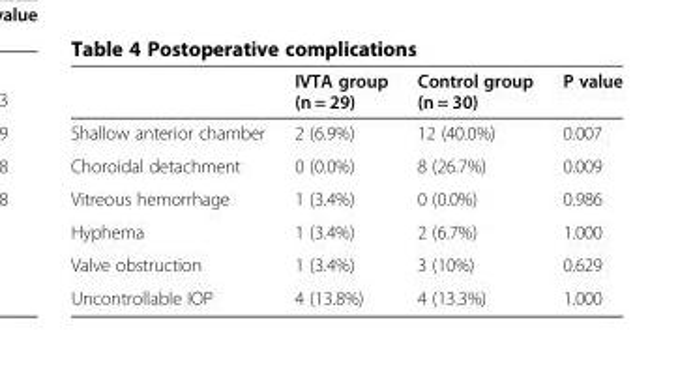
<table><thead><tr><td></td><td>IVTA group (n = 29)</td><td>Control group (n = 30)</td><td>P value</td></tr></thead><tbody><tr><td>Shallow anterior chamber</td><td>2 (6.9%)</td><td>12 (40.0%)</td><td>0.007</td></tr><tr><td>Choroidal detachment</td><td>0 (0.0%)</td><td>8 (26.7%)</td><td>0.009</td></tr><tr><td>Vitreous hemorrhage</td><td>1 (3.4%)</td><td>0 (0.0%)</td><td>0.986</td></tr><tr><td>Hyphema</td><td>1 (3.4%)</td><td>2 (6.7%)</td><td>1.000</td></tr><tr><td>Valve obstruction</td><td>1 (3.4%)</td><td>3 (10%)</td><td>0.629</td></tr><tr><td>Uncontrollable IOP</td><td>4 (13.8%)</td><td>4 (13.3%)</td><td>1.000</td></tr></tbody></table>